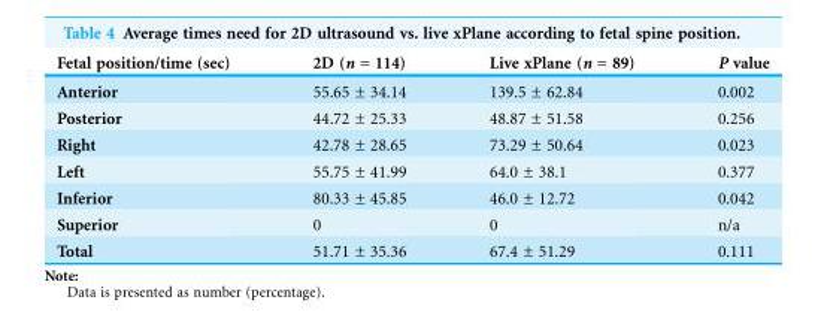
<table><thead><tr><td>Fetal position/time (sec)</td><td>2D (n = 114)</td><td>Live xPlane (n = 89)</td><td>P value</td></tr></thead><tbody><tr><td>Anterior</td><td>55.65 ± 34.14</td><td>139.5 ± 62.84</td><td>0.002</td></tr><tr><td>Posterior</td><td>44.72 ± 25.33</td><td>48.87 ± 51.58</td><td>0.256</td></tr><tr><td>Right</td><td>42.78 ± 28.65</td><td>73.29 ± 50.64</td><td>0.023</td></tr><tr><td>Left</td><td>55.75 ± 41.99</td><td>64.0 ± 38.1</td><td>0.377</td></tr><tr><td>Inferior</td><td>80.33 ± 45.85</td><td>46.0 ± 12.72</td><td>0.042</td></tr><tr><td>Superior</td><td>0</td><td>0</td><td>n/a</td></tr><tr><td>Total</td><td>51.71 ± 35.36</td><td>67.4 ± 51.29</td><td>0.111</td></tr></tbody></table>